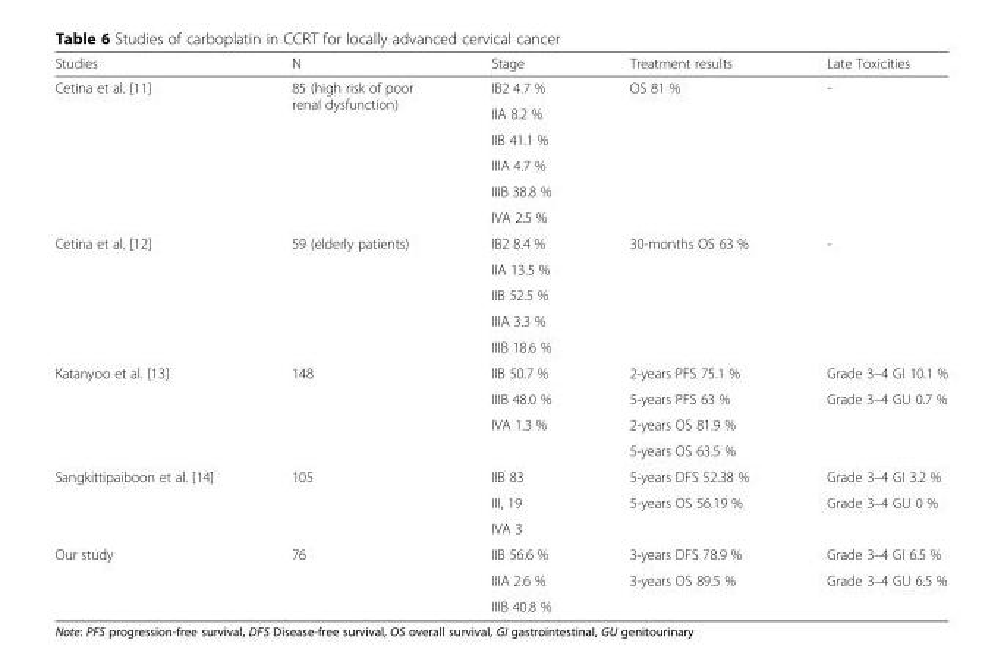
<table><thead><tr><td>Studies</td><td>N</td><td>Stage</td><td>Treatment results</td><td>Late Toxicities</td></tr></thead><tbody><tr><td rowspan="6">Cetina et al. [11]</td><td rowspan="6">85 (high risk of poor renal dysfunction)</td><td>IB2 4.7 %</td><td rowspan="6">OS 81 %</td><td rowspan="6">-</td></tr><tr><td>IIA 8.2 %</td></tr><tr><td>IIB 41.1 %</td></tr><tr><td>IIIA 4.7 %</td></tr><tr><td>IIIB 38.8 %</td></tr><tr><td>IVA 2.5 %</td></tr><tr><td rowspan="5">Cetina et al. [12]</td><td rowspan="5">59 (elderly patients)</td><td>IB2 8.4 %</td><td rowspan="5">30-months OS 63 %</td><td rowspan="5">-</td></tr><tr><td>IIA 13.5 %</td></tr><tr><td>IIB 52.5 %</td></tr><tr><td>IIIA 3.3 %</td></tr><tr><td>IIIB 18.6 %</td></tr><tr><td rowspan="4">Katanyoo et al. [13]</td><td rowspan="4">148</td><td>IIB 50.7 %</td><td>2-years PFS 75.1 %</td><td>Grade 3–4 GI 10.1 %</td></tr><tr><td>IIIB 48.0 %</td><td>5-years PFS 63 %</td><td rowspan="3">Grade 3–4 GU 0.7 %</td></tr><tr><td rowspan="2">IVA 1.3 %</td><td>2-years OS 81.9 %</td></tr><tr><td>5-years OS 63.5 %</td></tr><tr><td rowspan="3">Sangkittipaiboon et al. [14]</td><td rowspan="3">105</td><td>IIB 83</td><td>5-years DFS 52.38 %</td><td>Grade 3–4 GI 3.2 %</td></tr><tr><td>III, 19</td><td rowspan="2">5-years OS 56.19 %</td><td rowspan="2">Grade 3–4 GU 0 %</td></tr><tr><td>IVA 3</td></tr><tr><td rowspan="3">Our study</td><td rowspan="3">76</td><td>IIB 56.6 %</td><td>3-years DFS 78.9 %</td><td>Grade 3–4 GI 6.5 %</td></tr><tr><td>IIIA 2.6 %</td><td rowspan="2">3-years OS 89.5 %</td><td rowspan="2">Grade 3–4 GU 6.5 %</td></tr><tr><td>IIIB 40.8 %</td></tr></tbody></table>